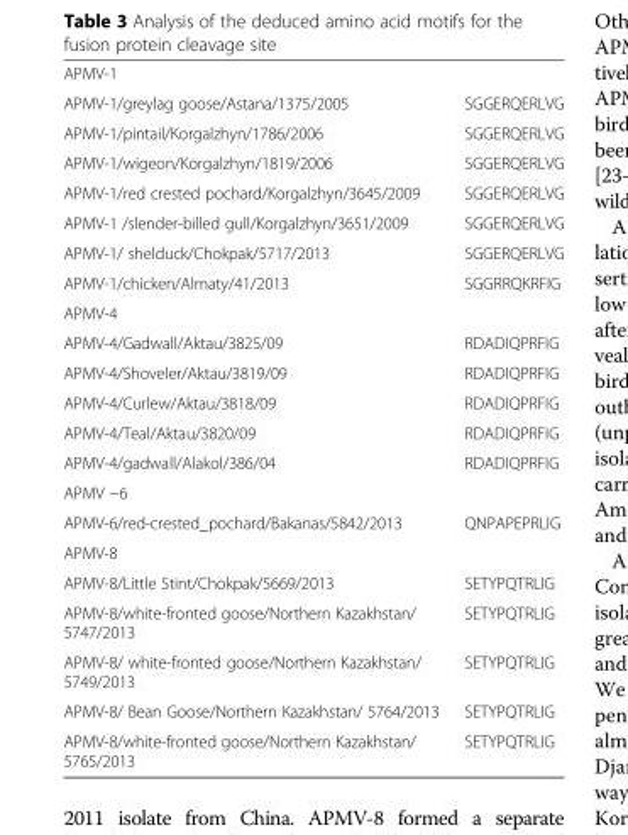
<table><tbody><tr><td colspan="2">APMV-1</td></tr><tr><td>APMV-1/greylag goose/Astana/1375/2005</td><td>SGGERQERLVG</td></tr><tr><td>APMV-1/pintail/Korgalzhyn/1786/2006</td><td>SGGERQERLVG</td></tr><tr><td>APMV-1/wigeon/Korgalzhyn/1819/2006</td><td>SGGERQERLVG</td></tr><tr><td>APMV-1/red crested pochard/Korgalzhyn/3645/2009</td><td>SGGERQERLVG</td></tr><tr><td>APMV-1 /slender-billed gull/Korgalzhyn/3651/2009</td><td>SGGERQERLVG</td></tr><tr><td>APMV-1/ shelduck/Chokpak/5717/2013</td><td>SGGERQERLVG</td></tr><tr><td>APMV-1/chicken/Almaty/41/2013</td><td>SGGRRQKRFIG</td></tr><tr><td colspan="2">APMV-4</td></tr><tr><td>APMV-4/Gadwall/Aktau/3825/09</td><td>RDADIQPRFIG</td></tr><tr><td>APMV-4/Shoveler/Aktau/3819/09</td><td>RDADIQPRFIG</td></tr><tr><td>APMV-4/Curlew/Aktau/3818/09</td><td>RDADIQPRFIG</td></tr><tr><td>APMV-4/Teal/Aktau/3820/09</td><td>RDADIQPRFIG</td></tr><tr><td>APMV-4/gadwall/Alakol/386/04</td><td>RDADIQPRFIG</td></tr><tr><td colspan="2">APMV −6</td></tr><tr><td>APMV-6/red-crested_pochard/Bakanas/5842/2013</td><td>QNPAPEPRLIG</td></tr><tr><td colspan="2">APMV-8</td></tr><tr><td>APMV-8/Little Stint/Chokpak/5669/2013</td><td>SETYPQTRLIG</td></tr><tr><td>APMV-8/white-fronted goose/Northern Kazakhstan/ 5747/2013</td><td>SETYPQTRLIG</td></tr><tr><td>APMV-8/ white-fronted goose/Northern Kazakhstan/ 5749/2013</td><td>SETYPQTRLIG</td></tr><tr><td>APMV-8/ Bean Goose/Northern Kazakhstan/ 5764/2013</td><td>SETYPQTRLIG</td></tr><tr><td>APMV-8/white-fronted goose/Northern Kazakhstan/ 5765/2013</td><td>SETYPQTRLIG</td></tr></tbody></table>